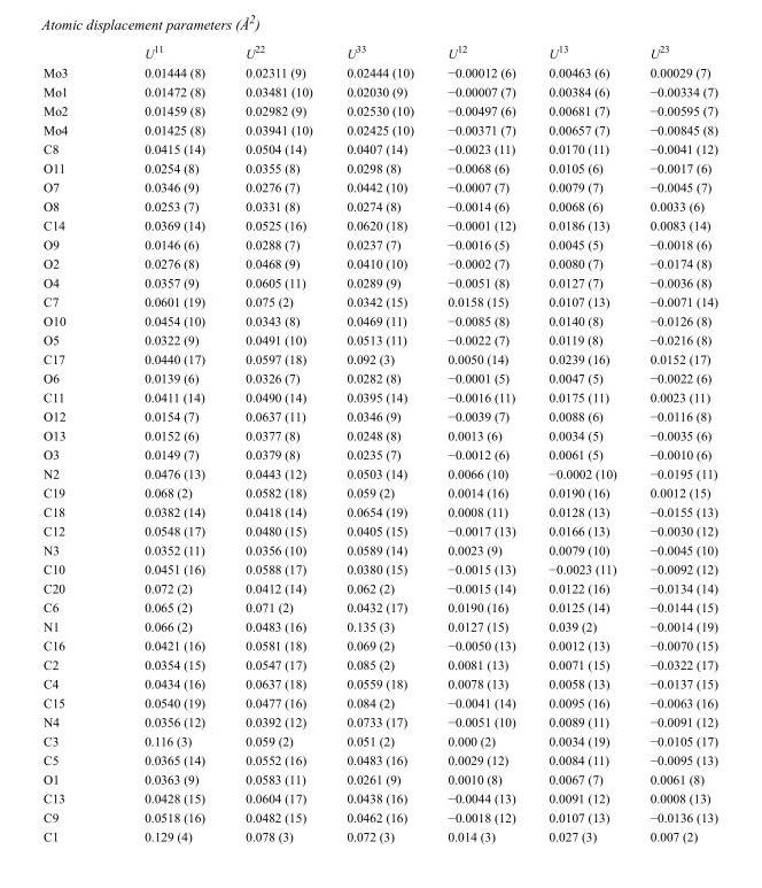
<table><thead><tr><td></td><td>U<sup>11</sup></td><td>U<sup>22</sup></td><td>U<sup>33</sup></td><td>U<sup>12</sup></td><td>U<sup>13</sup></td><td>U<sup>23</sup></td></tr></thead><tbody><tr><td>Mo3</td><td>0.01444 (8)</td><td>0.02311 (9)</td><td>0.02444 (10)</td><td>−0.00012 (6)</td><td>0.00463 (6)</td><td>0.00029 (7)</td></tr><tr><td>Mo1</td><td>0.01472 (8)</td><td>0.03481 (10)</td><td>0.02030 (9)</td><td>−0.00007 (7)</td><td>0.00384 (6)</td><td>−0.00334 (7)</td></tr><tr><td>Mo2</td><td>0.01459 (8)</td><td>0.02982 (9)</td><td>0.02530 (10)</td><td>−0.00497 (6)</td><td>0.00681 (7)</td><td>−0.00595 (7)</td></tr><tr><td>Mo4</td><td>0.01425 (8)</td><td>0.03941 (10)</td><td>0.02425 (10)</td><td>−0.00371 (7)</td><td>0.00657 (7)</td><td>−0.00845 (8)</td></tr><tr><td>C8</td><td>0.0415 (14)</td><td>0.0504 (14)</td><td>0.0407 (14)</td><td>−0.0023 (11)</td><td>0.0170 (11)</td><td>−0.0041 (12)</td></tr><tr><td>O11</td><td>0.0254 (8)</td><td>0.0355 (8)</td><td>0.0298 (8)</td><td>−0.0068 (6)</td><td>0.0105 (6)</td><td>−0.0017 (6)</td></tr><tr><td>O7</td><td>0.0346 (9)</td><td>0.0276 (7)</td><td>0.0442 (10)</td><td>−0.0007 (7)</td><td>0.0079 (7)</td><td>−0.0045 (7)</td></tr><tr><td>O8</td><td>0.0253 (7)</td><td>0.0331 (8)</td><td>0.0274 (8)</td><td>−0.0014 (6)</td><td>0.0068 (6)</td><td>0.0033 (6)</td></tr><tr><td>C14</td><td>0.0369 (14)</td><td>0.0525 (16)</td><td>0.0620 (18)</td><td>−0.0001 (12)</td><td>0.0186 (13)</td><td>0.0083 (14)</td></tr><tr><td>O9</td><td>0.0146 (6)</td><td>0.0288 (7)</td><td>0.0237 (7)</td><td>−0.0016 (5)</td><td>0.0045 (5)</td><td>−0.0018 (6)</td></tr><tr><td>O2</td><td>0.0276 (8)</td><td>0.0468 (9)</td><td>0.0410 (10)</td><td>−0.0002 (7)</td><td>0.0080 (7)</td><td>−0.0174 (8)</td></tr><tr><td>O4</td><td>0.0357 (9)</td><td>0.0605 (11)</td><td>0.0289 (9)</td><td>−0.0051 (8)</td><td>0.0127 (7)</td><td>−0.0036 (8)</td></tr><tr><td>C7</td><td>0.0601 (19)</td><td>0.075 (2)</td><td>0.0342 (15)</td><td>0.0158 (15)</td><td>0.0107 (13)</td><td>−0.0071 (14)</td></tr><tr><td>O10</td><td>0.0454 (10)</td><td>0.0343 (8)</td><td>0.0469 (11)</td><td>−0.0085 (8)</td><td>0.0140 (8)</td><td>−0.0126 (8)</td></tr><tr><td>O5</td><td>0.0322 (9)</td><td>0.0491 (10)</td><td>0.0513 (11)</td><td>−0.0022 (7)</td><td>0.0119 (8)</td><td>−0.0216 (8)</td></tr><tr><td>C17</td><td>0.0440 (17)</td><td>0.0597 (18)</td><td>0.092 (3)</td><td>0.0050 (14)</td><td>0.0239 (16)</td><td>0.0152 (17)</td></tr><tr><td>O6</td><td>0.0139 (6)</td><td>0.0326 (7)</td><td>0.0282 (8)</td><td>−0.0001 (5)</td><td>0.0047 (5)</td><td>−0.0022 (6)</td></tr><tr><td>C11</td><td>0.0411 (14)</td><td>0.0490 (14)</td><td>0.0395 (14)</td><td>−0.0016 (11)</td><td>0.0175 (11)</td><td>0.0023 (11)</td></tr><tr><td>O12</td><td>0.0154 (7)</td><td>0.0637 (11)</td><td>0.0346 (9)</td><td>−0.0039 (7)</td><td>0.0088 (6)</td><td>−0.0116 (8)</td></tr><tr><td>O13</td><td>0.0152 (6)</td><td>0.0377 (8)</td><td>0.0248 (8)</td><td>0.0013 (6)</td><td>0.0034 (5)</td><td>−0.0035 (6)</td></tr><tr><td>O3</td><td>0.0149 (7)</td><td>0.0379 (8)</td><td>0.0235 (7)</td><td>−0.0012 (6)</td><td>0.0061 (5)</td><td>−0.0010 (6)</td></tr><tr><td>N2</td><td>0.0476 (13)</td><td>0.0443 (12)</td><td>0.0503 (14)</td><td>0.0066 (10)</td><td>−0.0002 (10)</td><td>−0.0195 (11)</td></tr><tr><td>C19</td><td>0.068 (2)</td><td>0.0582 (18)</td><td>0.059 (2)</td><td>0.0014 (16)</td><td>0.0190 (16)</td><td>0.0012 (15)</td></tr><tr><td>C18</td><td>0.0382 (14)</td><td>0.0418 (14)</td><td>0.0654 (19)</td><td>0.0008 (11)</td><td>0.0128 (13)</td><td>−0.0155 (13)</td></tr><tr><td>C12</td><td>0.0548 (17)</td><td>0.0480 (15)</td><td>0.0405 (15)</td><td>−0.0017 (13)</td><td>0.0166 (13)</td><td>−0.0030 (12)</td></tr><tr><td>N3</td><td>0.0352 (11)</td><td>0.0356 (10)</td><td>0.0589 (14)</td><td>0.0023 (9)</td><td>0.0079 (10)</td><td>−0.0045 (10)</td></tr><tr><td>C10</td><td>0.0451 (16)</td><td>0.0588 (17)</td><td>0.0380 (15)</td><td>−0.0015 (13)</td><td>−0.0023 (11)</td><td>−0.0092 (12)</td></tr><tr><td>C20</td><td>0.072 (2)</td><td>0.0412 (14)</td><td>0.062 (2)</td><td>−0.0015 (14)</td><td>0.0122 (16)</td><td>−0.0134 (14)</td></tr><tr><td>C6</td><td>0.065 (2)</td><td>0.071 (2)</td><td>0.0432 (17)</td><td>0.0190 (16)</td><td>0.0125 (14)</td><td>−0.0144 (15)</td></tr><tr><td>N1</td><td>0.066 (2)</td><td>0.0483 (16)</td><td>0.135 (3)</td><td>0.0127 (15)</td><td>0.039 (2)</td><td>−0.0014 (19)</td></tr><tr><td>C16</td><td>0.0421 (16)</td><td>0.0581 (18)</td><td>0.069 (2)</td><td>−0.0050 (13)</td><td>0.0012 (13)</td><td>−0.0070 (15)</td></tr><tr><td>C2</td><td>0.0354 (15)</td><td>0.0547 (17)</td><td>0.085 (2)</td><td>0.0081 (13)</td><td>0.0071 (15)</td><td>−0.0322 (17)</td></tr><tr><td>C4</td><td>0.0434 (16)</td><td>0.0637 (18)</td><td>0.0559 (18)</td><td>0.0078 (13)</td><td>0.0058 (13)</td><td>−0.0137 (15)</td></tr><tr><td>C15</td><td>0.0540 (19)</td><td>0.0477 (16)</td><td>0.084 (2)</td><td>−0.0041 (14)</td><td>0.0095 (16)</td><td>−0.0063 (16)</td></tr><tr><td>N4</td><td>0.0356 (12)</td><td>0.0392 (12)</td><td>0.0733 (17)</td><td>−0.0051 (10)</td><td>0.0089 (11)</td><td>−0.0091 (12)</td></tr><tr><td>C3</td><td>0.116 (3)</td><td>0.059 (2)</td><td>0.051 (2)</td><td>0.000 (2)</td><td>0.0034 (19)</td><td>−0.0105 (17)</td></tr><tr><td>C5</td><td>0.0365 (14)</td><td>0.0552 (16)</td><td>0.0483 (16)</td><td>0.0029 (12)</td><td>0.0084 (11)</td><td>−0.0095 (13)</td></tr><tr><td>O1</td><td>0.0363 (9)</td><td>0.0583 (11)</td><td>0.0261 (9)</td><td>0.0010 (8)</td><td>0.0067 (7)</td><td>0.0061 (8)</td></tr><tr><td>C13</td><td>0.0428 (15)</td><td>0.0604 (17)</td><td>0.0438 (16)</td><td>−0.0044 (13)</td><td>0.0091 (12)</td><td>0.0008 (13)</td></tr><tr><td>C9</td><td>0.0518 (16)</td><td>0.0482 (15)</td><td>0.0462 (16)</td><td>−0.0018 (12)</td><td>0.0107 (13)</td><td>−0.0136 (13)</td></tr><tr><td>C1</td><td>0.129 (4)</td><td>0.078 (3)</td><td>0.072 (3)</td><td>0.014 (3)</td><td>0.027 (3)</td><td>0.007 (2)</td></tr></tbody></table>